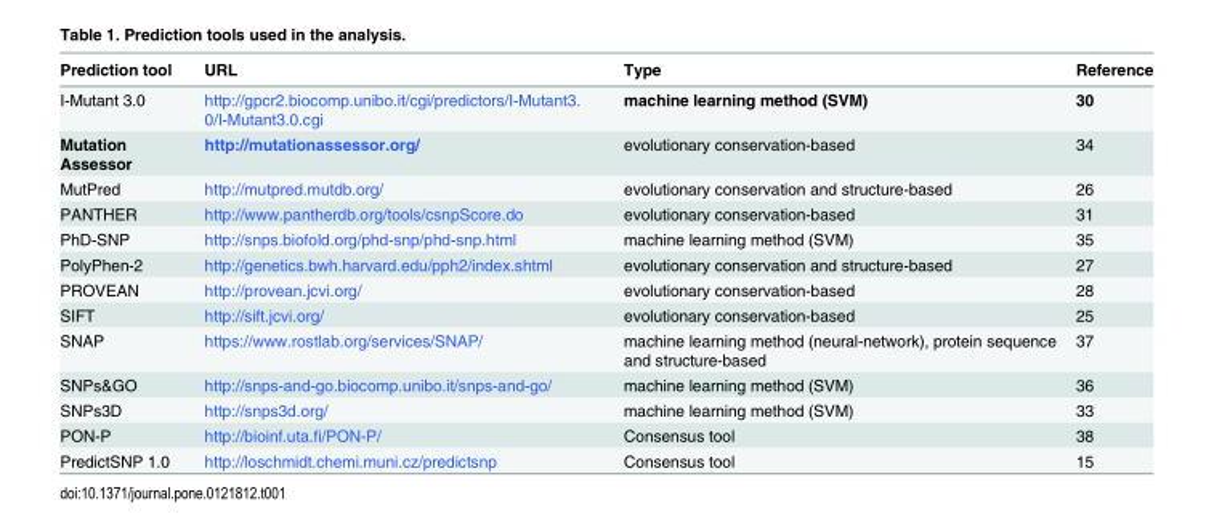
<table><thead><tr><td>Prediction tool</td><td>URL</td><td>Type</td><td>Reference</td></tr></thead><tbody><tr><td>I-Mutant 3.0</td><td>http://gpcr2.biocomp.unibo.it/cgi/predictors/I-Mutant3. 0/I-Mutant3.0.cgi</td><td>machine learning method (SVM)</td><td>30</td></tr><tr><td>Mutation Assessor</td><td>http://mutationassessor.org/</td><td>evolutionary conservation-based</td><td>34</td></tr><tr><td>MutPred</td><td>http://mutpred.mutdb.org/</td><td>evolutionary conservation and structure-based</td><td>26</td></tr><tr><td>PANTHER</td><td>http://www.pantherdb.org/tools/csnpScore.do</td><td>evolutionary conservation-based</td><td>31</td></tr><tr><td>PhD-SNP</td><td>http://snps.biofold.org/phd-snp/phd-snp.html</td><td>machine learning method (SVM)</td><td>35</td></tr><tr><td>PolyPhen-2</td><td>http://genetics.bwh.harvard.edu/pph2/index.shtml</td><td>evolutionary conservation and structure-based</td><td>27</td></tr><tr><td>PROVEAN</td><td>http://provean.jcvi.org/</td><td>evolutionary conservation-based</td><td>28</td></tr><tr><td>SIFT</td><td>http://sift.jcvi.org/</td><td>evolutionary conservation-based</td><td>25</td></tr><tr><td>SNAP</td><td>https://www.rostlab.org/services/SNAP/</td><td>machine learning method (neural-network), protein sequence and structure-based</td><td>37</td></tr><tr><td>SNPs&amp;GO</td><td>http://snps-and-go.biocomp.unibo.it/snps-and-go/</td><td>machine learning method (SVM)</td><td>36</td></tr><tr><td>SNPs3D</td><td>http://snps3d.org/</td><td>machine learning method (SVM)</td><td>33</td></tr><tr><td>PON-P</td><td>http://bioinf.uta.fi/PON-P/</td><td>Consensus tool</td><td>38</td></tr><tr><td>PredictSNP 1.0</td><td>http://loschmidt.chemi.muni.cz/predictsnp</td><td>Consensus tool</td><td>15</td></tr></tbody></table>